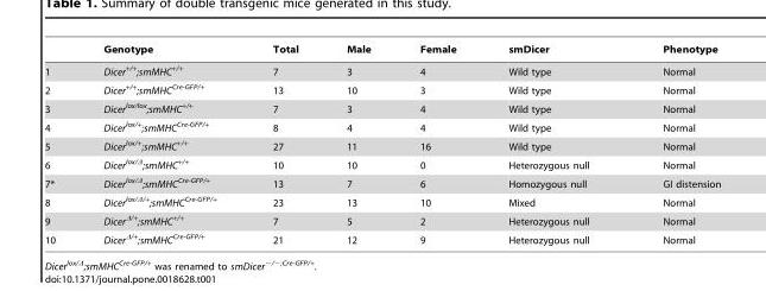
<table><thead><tr><td></td><td>Genotype</td><td>Total</td><td>Male</td><td>Female</td><td>smDicer</td><td>Phenotype</td></tr></thead><tbody><tr><td>1</td><td>Dicer<sup>+/+</sup>;smMHC<sup>+/+</sup></td><td>7</td><td>3</td><td>4</td><td>Wild type</td><td>Normal</td></tr><tr><td>2</td><td>Dicer<sup>+/+</sup>;smMHC<sup>Cre-GFP/+</sup></td><td>13</td><td>10</td><td>3</td><td>Wild type</td><td>Normal</td></tr><tr><td>3</td><td>Dicer<sup>lox/lox</sup>;smMHC<sup>+/+</sup></td><td>7</td><td>3</td><td>4</td><td>Wild type</td><td>Normal</td></tr><tr><td>4</td><td>Dicer<sup>lox/+</sup>;smMHC<sup>Cre-GFP/+</sup></td><td>8</td><td>4</td><td>4</td><td>Wild type</td><td>Normal</td></tr><tr><td>5</td><td>Dicer<sup>lox/+</sup>;smMHC<sup>+/+</sup></td><td>27</td><td>11</td><td>16</td><td>Wild type</td><td>Normal</td></tr><tr><td>6</td><td>Dicer<sup>lox/Δ</sup>;smMHC<sup>+/+</sup></td><td>10</td><td>10</td><td>0</td><td>Heterozygous null</td><td>Normal</td></tr><tr><td>7*</td><td>Dicer<sup>lox/Δ</sup>;smMHC<sup>Cre-GFP/+</sup></td><td>13</td><td>7</td><td>6</td><td>Homozygous null</td><td>GI distension</td></tr><tr><td>8</td><td>Dicer<sup>lox/Δ/+</sup>;smMHC<sup>Cre-GFP/+</sup></td><td>23</td><td>13</td><td>10</td><td>Mixed</td><td>Normal</td></tr><tr><td>9</td><td>Dicer<sup>Δ/+</sup>;smMHC<sup>+/+</sup></td><td>7</td><td>5</td><td>2</td><td>Heterozygous null</td><td>Normal</td></tr><tr><td>10</td><td>Dicer<sup>Δ/+</sup>;smMHC<sup>Cre-GFP/+</sup></td><td>21</td><td>12</td><td>9</td><td>Heterozygous null</td><td>Normal</td></tr></tbody></table>